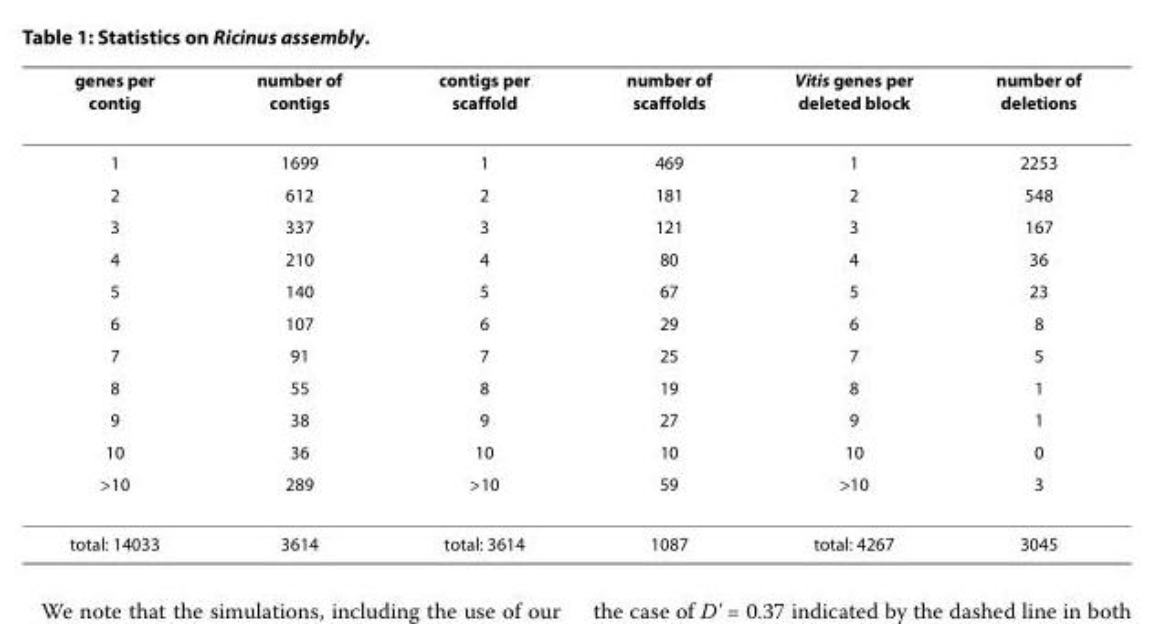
<table><thead><tr><td>genes per contig</td><td>number of contigs</td><td>contigs per scaffold</td><td>number of scaffolds</td><td>Vitis genes per deleted block</td><td>number of deletions</td></tr></thead><tbody><tr><td>1</td><td>1699</td><td>1</td><td>469</td><td>1</td><td>2253</td></tr><tr><td>2</td><td>612</td><td>2</td><td>181</td><td>2</td><td>548</td></tr><tr><td>3</td><td>337</td><td>3</td><td>121</td><td>3</td><td>167</td></tr><tr><td>4</td><td>210</td><td>4</td><td>80</td><td>4</td><td>36</td></tr><tr><td>5</td><td>140</td><td>5</td><td>67</td><td>5</td><td>23</td></tr><tr><td>6</td><td>107</td><td>6</td><td>29</td><td>6</td><td>8</td></tr><tr><td>7</td><td>91</td><td>7</td><td>25</td><td>7</td><td>5</td></tr><tr><td>8</td><td>55</td><td>8</td><td>19</td><td>8</td><td>1</td></tr><tr><td>9</td><td>38</td><td>9</td><td>27</td><td>9</td><td>1</td></tr><tr><td>10</td><td>36</td><td>10</td><td>10</td><td>10</td><td>0</td></tr><tr><td>&gt;10</td><td>289</td><td>&gt;10</td><td>59</td><td>&gt;10</td><td>3</td></tr><tr><td>total: 14033</td><td>3614</td><td>total: 3614</td><td>1087</td><td>total: 4267</td><td>3045</td></tr></tbody></table>